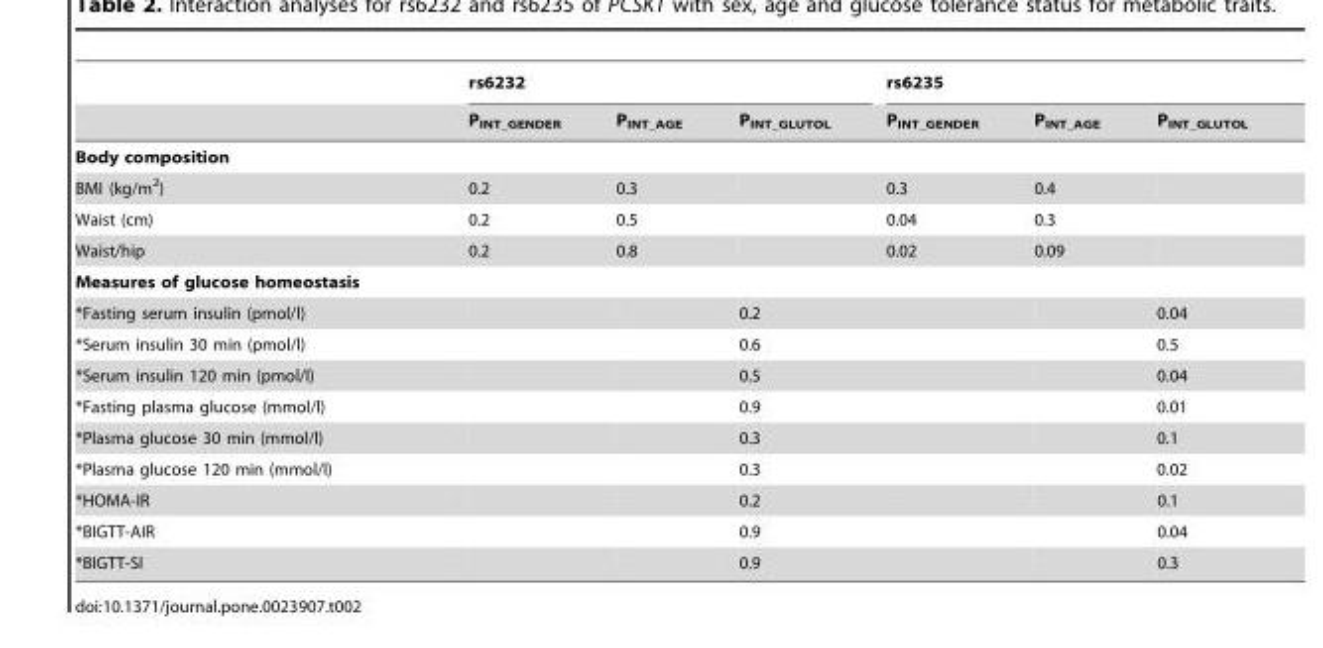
<table><thead><tr><td rowspan="2"></td><td colspan="3">rs6232</td><td colspan="3">rs6235</td></tr><tr><td>P<sub>INT_GENDER</sub></td><td>P<sub>INT_AGE</sub></td><td>P<sub>INT_GLUTOL</sub></td><td>P<sub>INT_GENDER</sub></td><td>P<sub>INT_AGE</sub></td><td>P<sub>INT_GLUTOL</sub></td></tr></thead><tbody><tr><td colspan="7">Body composition</td></tr><tr><td>BMI (kg/m<sup>2</sup>)</td><td>0.2</td><td>0.3</td><td></td><td>0.3</td><td>0.4</td><td></td></tr><tr><td>Waist (cm)</td><td>0.2</td><td>0.5</td><td></td><td>0.04</td><td>0.3</td><td></td></tr><tr><td>Waist/hip</td><td>0.2</td><td>0.8</td><td></td><td>0.02</td><td>0.09</td><td></td></tr><tr><td colspan="7">Measures of glucose homeostasis</td></tr><tr><td>*Fasting serum insulin (pmol/l)</td><td></td><td></td><td>0.2</td><td></td><td></td><td>0.04</td></tr><tr><td>*Serum insulin 30 min (pmol/l)</td><td></td><td></td><td>0.6</td><td></td><td></td><td>0.5</td></tr><tr><td>*Serum insulin 120 min (pmol/l)</td><td></td><td></td><td>0.5</td><td></td><td></td><td>0.04</td></tr><tr><td>*Fasting plasma glucose (mmol/l)</td><td></td><td></td><td>0.9</td><td></td><td></td><td>0.01</td></tr><tr><td>*Plasma glucose 30 min (mmol/l)</td><td></td><td></td><td>0.3</td><td></td><td></td><td>0.1</td></tr><tr><td>*Plasma glucose 120 min (mmol/l)</td><td></td><td></td><td>0.3</td><td></td><td></td><td>0.02</td></tr><tr><td>*HOMA-IR</td><td></td><td></td><td>0.2</td><td></td><td></td><td>0.1</td></tr><tr><td>*BIGTT-AIR</td><td></td><td></td><td>0.9</td><td></td><td></td><td>0.04</td></tr><tr><td>*BIGTT-SI</td><td></td><td></td><td>0.9</td><td></td><td></td><td>0.3</td></tr></tbody></table>